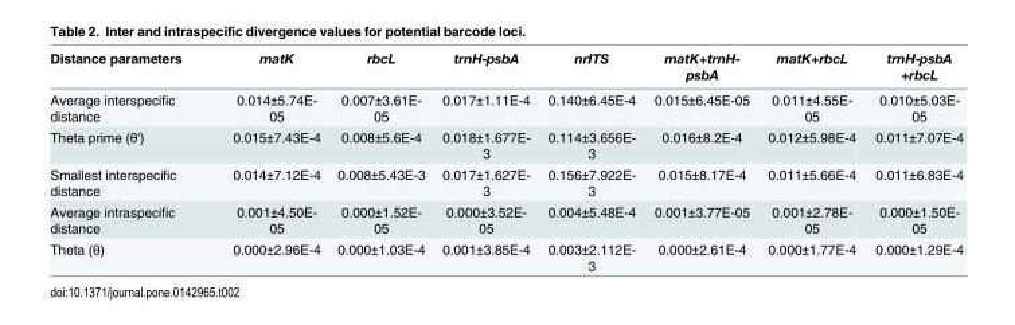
<table><thead><tr><td>Distance parameters</td><td>matK</td><td>rbcL</td><td>trnH-psbA</td><td>nrITS</td><td>matK+trnH- psbA</td><td>matK+rbcL</td><td>trnH-psbA +rbcL</td></tr></thead><tbody><tr><td>Average interspecific distance</td><td>0.014±5.74E- 05</td><td>0.007±3.61E- 05</td><td>0.017±1.11E-4</td><td>0.140±6.45E-4</td><td>0.015±6.45E-05</td><td>0.011±4.55E- 05</td><td>0.010±5.03E- 05</td></tr><tr><td>Theta prime (θ&#x27;)</td><td>0.015±7.43E-4</td><td>0.008±5.6E-4</td><td>0.018±1.677E- 3</td><td>0.114±3.656E- 3</td><td>0.016±8.2E-4</td><td>0.012±5.98E-4</td><td>0.011±7.07E-4</td></tr><tr><td>Smallest interspecific distance</td><td>0.014±7.12E-4</td><td>0.008±5.43E-3</td><td>0.017±1.627E- 3</td><td>0.156±7.922E- 3</td><td>0.015±8.17E-4</td><td>0.011±5.66E-4</td><td>0.011±6.83E-4</td></tr><tr><td>Average intraspecific distance</td><td>0.001±4.50E- 05</td><td>0.000±1.52E- 05</td><td>0.000±3.52E- 05</td><td>0.004±5.48E-4</td><td>0.001±3.77E-05</td><td>0.001±2.78E- 05</td><td>0.000±1.50E- 05</td></tr><tr><td>Theta (θ)</td><td>0.000±2.96E-4</td><td>0.000±1.03E-4</td><td>0.001±3.85E-4</td><td>0.003±2.112E- 3</td><td>0.000±2.61E-4</td><td>0.000±1.77E-4</td><td>0.000±1.29E-4</td></tr></tbody></table>